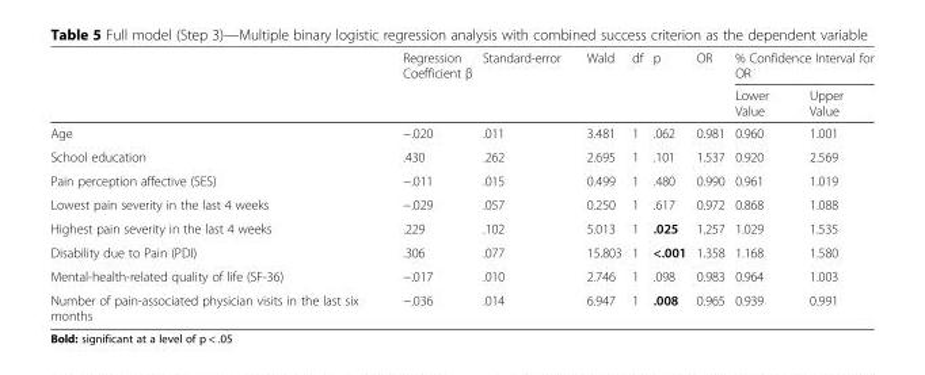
<table><thead><tr><td rowspan="2"></td><td rowspan="2">Regression Coefficient β</td><td rowspan="2">Standard-error</td><td rowspan="2">Wald</td><td rowspan="2">df</td><td rowspan="2">p</td><td rowspan="2">OR</td><td colspan="2">% Confidence Interval for OR</td></tr><tr><td>Lower Value</td><td>Upper Value</td></tr></thead><tbody><tr><td>Age</td><td>−.020</td><td>.011</td><td>3.481</td><td>1</td><td>.062</td><td>0.981</td><td>0.960</td><td>1.001</td></tr><tr><td>School education</td><td>.430</td><td>.262</td><td>2.695</td><td>1</td><td>.101</td><td>1.537</td><td>0.920</td><td>2.569</td></tr><tr><td>Pain perception affective (SES)</td><td>−.011</td><td>.015</td><td>0.499</td><td>1</td><td>.480</td><td>0.990</td><td>0.961</td><td>1.019</td></tr><tr><td>Lowest pain severity in the last 4 weeks</td><td>−.029</td><td>.057</td><td>0.250</td><td>1</td><td>.617</td><td>0.972</td><td>0.868</td><td>1.088</td></tr><tr><td>Highest pain severity in the last 4 weeks</td><td>.229</td><td>.102</td><td>5.013</td><td>1</td><td>.025</td><td>1.257</td><td>1.029</td><td>1.535</td></tr><tr><td>Disability due to Pain (PDI)</td><td>.306</td><td>.077</td><td>15.803</td><td>1</td><td>&lt;.001</td><td>1.358</td><td>1.168</td><td>1.580</td></tr><tr><td>Mental-health-related quality of life (SF-36)</td><td>−.017</td><td>.010</td><td>2.746</td><td>1</td><td>.098</td><td>0.983</td><td>0.964</td><td>1.003</td></tr><tr><td>Number of pain-associated physician visits in the last six months</td><td>−.036</td><td>.014</td><td>6.947</td><td>1</td><td>.008</td><td>0.965</td><td>0.939</td><td>0.991</td></tr></tbody></table>